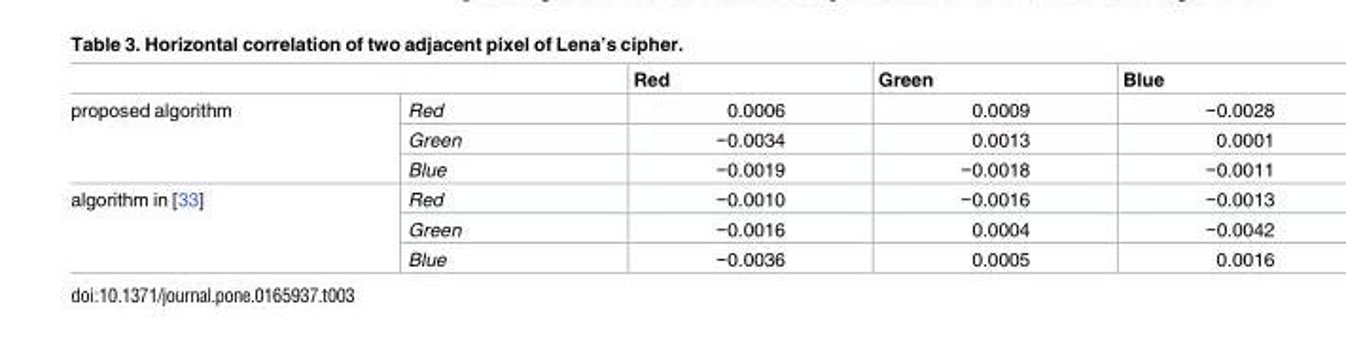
<table><thead><tr><td></td><td></td><td>Red</td><td>Green</td><td>Blue</td></tr></thead><tbody><tr><td rowspan="3">proposed algorithm</td><td>Red</td><td>0.0006</td><td>0.0009</td><td>−0.0028</td></tr><tr><td>Green</td><td>−0.0034</td><td>0.0013</td><td>0.0001</td></tr><tr><td>Blue</td><td>−0.0019</td><td>−0.0018</td><td>−0.0011</td></tr><tr><td rowspan="3">algorithm in [33]</td><td>Red</td><td>−0.0010</td><td>−0.0016</td><td>−0.0013</td></tr><tr><td>Green</td><td>−0.0016</td><td>0.0004</td><td>−0.0042</td></tr><tr><td>Blue</td><td>−0.0036</td><td>0.0005</td><td>0.0016</td></tr></tbody></table>